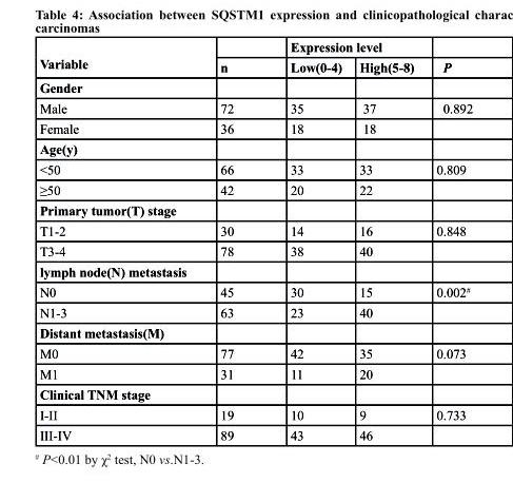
<table><thead><tr><td rowspan="2">Variable</td><td rowspan="2">n</td><td colspan="2">Expression level</td><td rowspan="2">P</td></tr><tr><td>Low(0-4)</td><td>High(5-8)</td></tr></thead><tbody><tr><td colspan="5">Gender</td></tr><tr><td>Male</td><td>72</td><td>35</td><td>37</td><td>0.892</td></tr><tr><td>Female</td><td>36</td><td>18</td><td>18</td><td></td></tr><tr><td colspan="5">Age(y)</td></tr><tr><td>&lt;50</td><td>66</td><td>33</td><td>33</td><td>0.809</td></tr><tr><td>≥50</td><td>42</td><td>20</td><td>22</td><td></td></tr><tr><td colspan="5">Primary tumor(T) stage</td></tr><tr><td>T1-2</td><td>30</td><td>14</td><td>16</td><td>0.848</td></tr><tr><td>T3-4</td><td>78</td><td>38</td><td>40</td><td></td></tr><tr><td colspan="5">lymph node(N) metastasis</td></tr><tr><td>N0</td><td>45</td><td>30</td><td>15</td><td>0.002#</td></tr><tr><td>N1-3</td><td>63</td><td>23</td><td>40</td><td></td></tr><tr><td colspan="5">Distant metastasis(M)</td></tr><tr><td>M0</td><td>77</td><td>42</td><td>35</td><td>0.073</td></tr><tr><td>M1</td><td>31</td><td>11</td><td>20</td><td></td></tr><tr><td colspan="5">Clinical TNM stage</td></tr><tr><td>I-II</td><td>19</td><td>10</td><td>9</td><td>0.733</td></tr><tr><td>III-IV</td><td>89</td><td>43</td><td>46</td><td></td></tr></tbody></table>